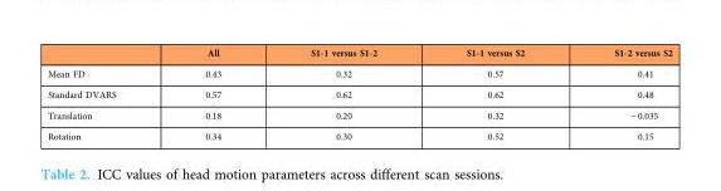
<table><thead><tr><td></td><td>All</td><td>S1-1 versus S1-2</td><td>S1-1 versus S2</td><td>S1-2 versus S2</td></tr></thead><tbody><tr><td>Mean FD</td><td>0.43</td><td>0.32</td><td>0.57</td><td>0.41</td></tr><tr><td>Standard DVARS</td><td>0.57</td><td>0.62</td><td>0.62</td><td>0.48</td></tr><tr><td>Translation</td><td>0.18</td><td>0.20</td><td>0.32</td><td>− 0.035</td></tr><tr><td>Rotation</td><td>0.34</td><td>0.30</td><td>0.52</td><td>0.15</td></tr></tbody></table>